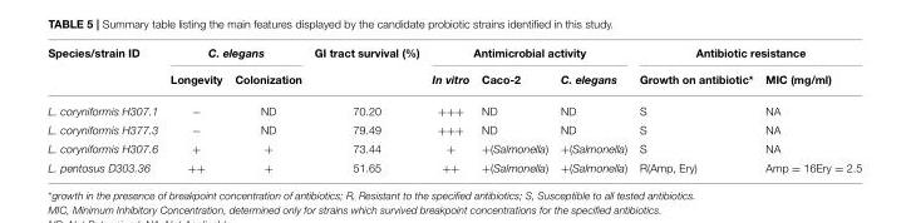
<table><thead><tr><td rowspan="2">Species/strain ID</td><td colspan="2">C. elegans</td><td rowspan="2">GI tract survival (%)</td><td colspan="3">Antimicrobial activity</td><td colspan="2">Antibiotic resistance</td></tr><tr><td>Longevity</td><td>Colonization</td><td>In vitro</td><td>Caco-2</td><td>C. elegans</td><td>Growth on antibiotic*</td><td>MIC (mg/ml)</td></tr></thead><tbody><tr><td>L. coryniformis H307.1</td><td>−</td><td>ND</td><td>70.20</td><td>+++</td><td>ND</td><td>ND</td><td>S</td><td>NA</td></tr><tr><td>L. coryniformis H377.3</td><td>−</td><td>ND</td><td>79.49</td><td>+++</td><td>ND</td><td>ND</td><td>S</td><td>NA</td></tr><tr><td>L. coryniformis H307.6</td><td>+</td><td>+</td><td>73.44</td><td>+</td><td>+(Salmonella)</td><td>+(Salmonella)</td><td>S</td><td>NA</td></tr><tr><td>L. pentosus D303.36</td><td>++</td><td>+</td><td>51.65</td><td>++</td><td>+(Salmonella)</td><td>+(Salmonella)</td><td>R(Amp, Ery)</td><td>Amp = 16Ery = 2.5</td></tr></tbody></table>